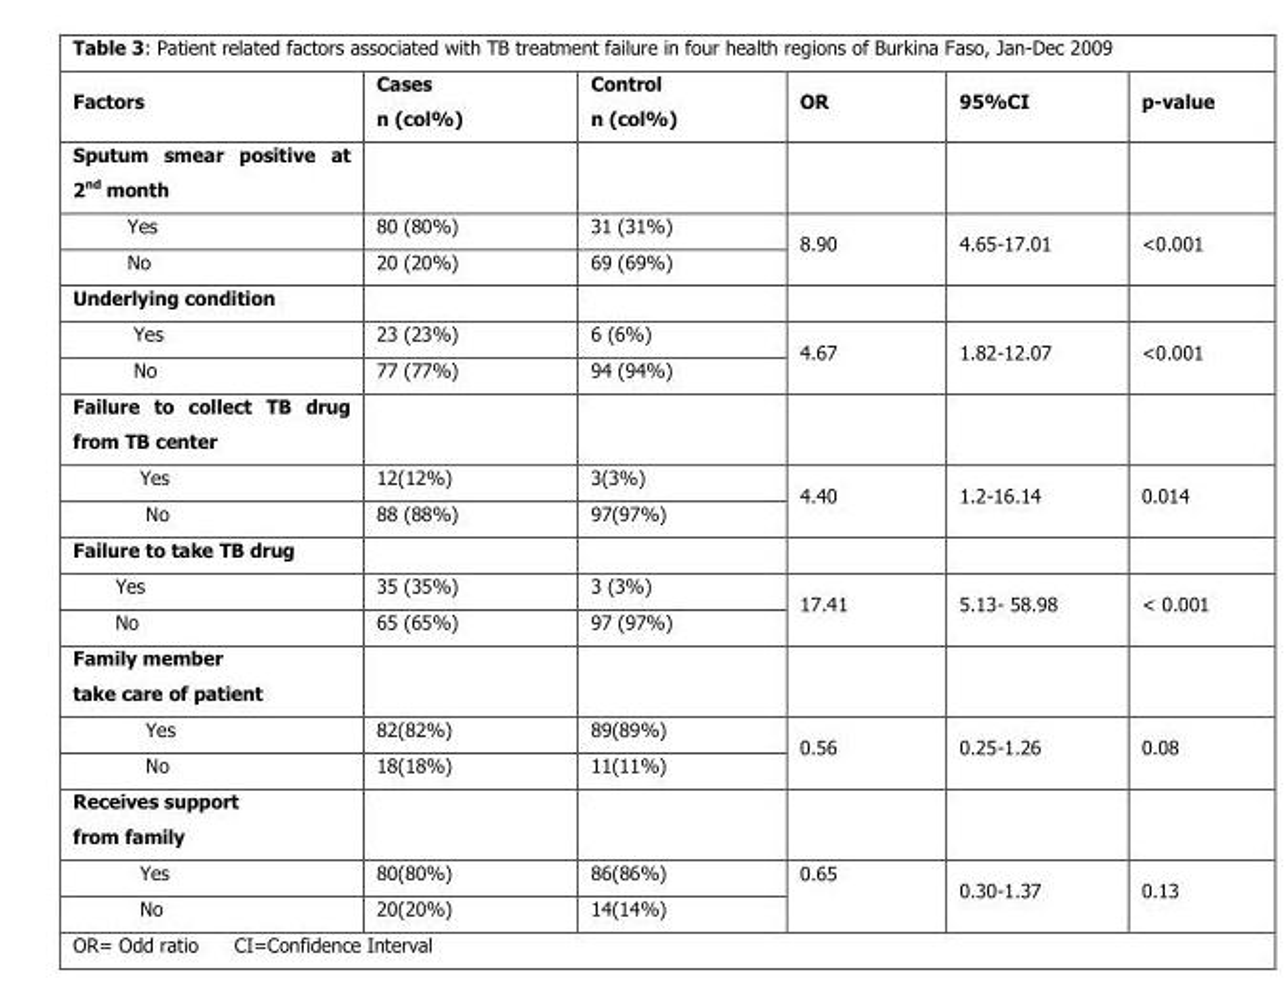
<table><thead><tr><td>Factors</td><td>Cases n (col%)</td><td>Control n (col%)</td><td>OR</td><td>95%CI</td><td>p-value</td></tr></thead><tbody><tr><td colspan="6">Sputum smear positive at 2<sup>nd</sup> month</td></tr><tr><td>Yes</td><td>80 (80%)</td><td>31 (31%)</td><td rowspan="2">8.90</td><td rowspan="2">4.65-17.01</td><td rowspan="2">&lt;0.001</td></tr><tr><td>No</td><td>20 (20%)</td><td>69 (69%)</td></tr><tr><td colspan="6">Underlying condition</td></tr><tr><td>Yes</td><td>23 (23%)</td><td>6 (6%)</td><td rowspan="2">4.67</td><td rowspan="2">1.82-12.07</td><td rowspan="2">&lt;0.001</td></tr><tr><td>No</td><td>77 (77%)</td><td>94 (94%)</td></tr><tr><td colspan="6">Failure to collect TB drug from TB center</td></tr><tr><td>Yes</td><td>12(12%)</td><td>3(3%)</td><td rowspan="2">4.40</td><td rowspan="2">1.2-16.14</td><td rowspan="2">0.014</td></tr><tr><td>No</td><td>88 (88%)</td><td>97(97%)</td></tr><tr><td colspan="6">Failure to take TB drug</td></tr><tr><td>Yes</td><td>35 (35%)</td><td>3 (3%)</td><td rowspan="2">17.41</td><td rowspan="2">5.13- 58.98</td><td rowspan="2">&lt; 0.001</td></tr><tr><td>No</td><td>65 (65%)</td><td>97 (97%)</td></tr><tr><td colspan="6">Family member take care of patient</td></tr><tr><td>Yes</td><td>82(82%)</td><td>89(89%)</td><td rowspan="2">0.56</td><td rowspan="2">0.25-1.26</td><td rowspan="2">0.08</td></tr><tr><td>No</td><td>18(18%)</td><td>11(11%)</td></tr><tr><td colspan="6">Receives support from family</td></tr><tr><td>Yes</td><td>80(80%)</td><td>86(86%)</td><td rowspan="2">0.65</td><td rowspan="2">0.30-1.37</td><td rowspan="2">0.13</td></tr><tr><td>No</td><td>20(20%)</td><td>14(14%)</td></tr></tbody></table>